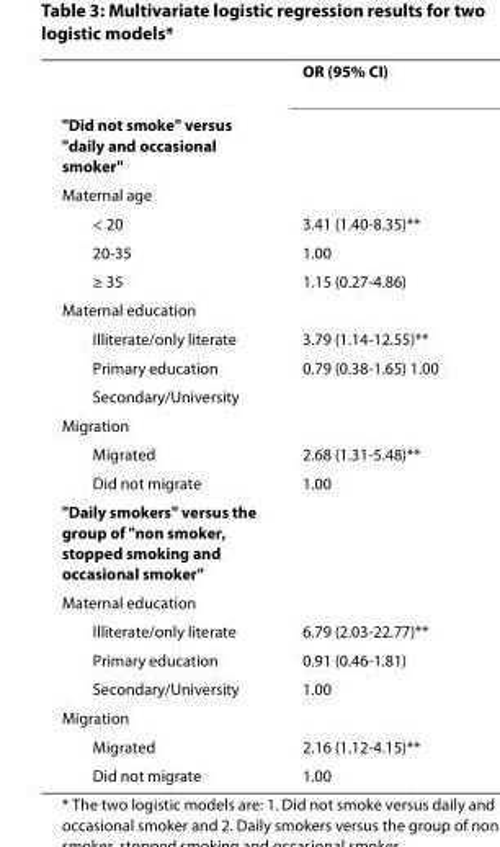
<table><thead><tr><td></td><td>OR (95% CI)</td></tr></thead><tbody><tr><td colspan="2">&quot;Did not smoke&quot; versus &quot;daily and occasional smoker&quot;</td></tr><tr><td colspan="2">Maternal age</td></tr><tr><td>&lt; 20</td><td>3.41 (1.40-8.35)**</td></tr><tr><td>20-35</td><td>1.00</td></tr><tr><td>≥ 35</td><td>1.15 (0.27-4.86)</td></tr><tr><td colspan="2">Maternal education</td></tr><tr><td>Illiterate/only literate</td><td>3.79 (1.14-12.55)**</td></tr><tr><td>Primary education</td><td>0.79 (0.38-1.65) 1.00</td></tr><tr><td colspan="2">Secondary/University</td></tr><tr><td colspan="2">Migration</td></tr><tr><td>Migrated</td><td>2.68 (1.31-5.48)**</td></tr><tr><td>Did not migrate</td><td>1.00</td></tr><tr><td colspan="2">&quot;Daily smokers&quot; versus the group of &quot;non smoker, stopped smoking and occasional smoker&quot;</td></tr><tr><td colspan="2">Maternal education</td></tr><tr><td>Illiterate/only literate</td><td>6.79 (2.03-22.77)**</td></tr><tr><td>Primary education</td><td>0.91 (0.46-1.81)</td></tr><tr><td>Secondary/University</td><td>1.00</td></tr><tr><td colspan="2">Migration</td></tr><tr><td>Migrated</td><td>2.16 (1.12-4.15)**</td></tr><tr><td>Did not migrate</td><td>1.00</td></tr></tbody></table>